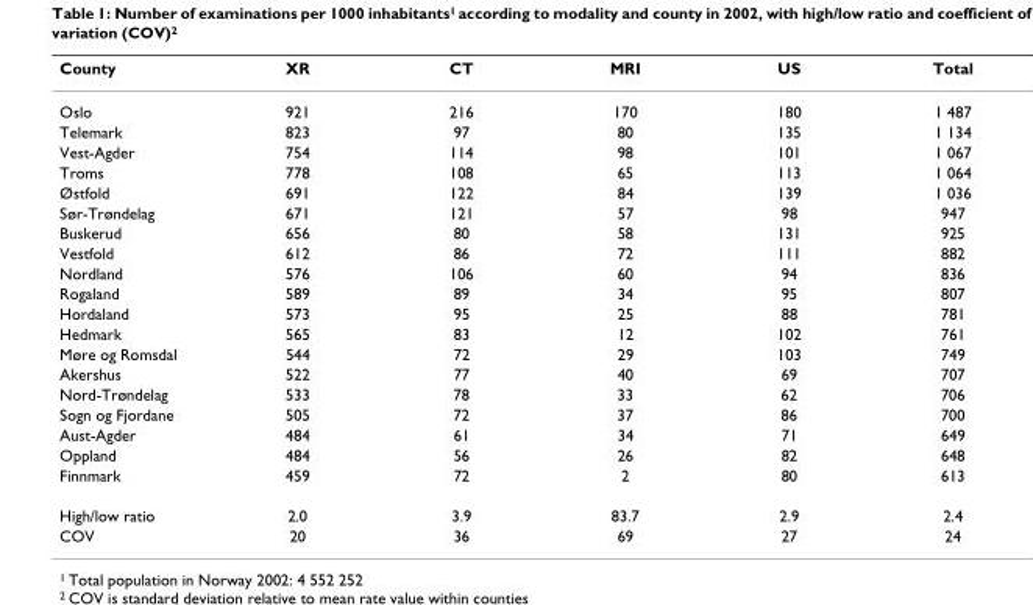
<table><thead><tr><td>County</td><td>XR</td><td>CT</td><td>MRI</td><td>US</td><td>Total</td></tr></thead><tbody><tr><td>Oslo</td><td>921</td><td>216</td><td>170</td><td>180</td><td>1 487</td></tr><tr><td>Telemark</td><td>823</td><td>97</td><td>80</td><td>135</td><td>1 134</td></tr><tr><td>Vest-Agder</td><td>754</td><td>114</td><td>98</td><td>101</td><td>1 067</td></tr><tr><td>Troms</td><td>778</td><td>108</td><td>65</td><td>113</td><td>1 064</td></tr><tr><td>Østfold</td><td>691</td><td>122</td><td>84</td><td>139</td><td>1 036</td></tr><tr><td>Sør-Trøndelag</td><td>671</td><td>121</td><td>57</td><td>98</td><td>947</td></tr><tr><td>Buskerud</td><td>656</td><td>80</td><td>58</td><td>131</td><td>925</td></tr><tr><td>Vestfold</td><td>612</td><td>86</td><td>72</td><td>111</td><td>882</td></tr><tr><td>Nordland</td><td>576</td><td>106</td><td>60</td><td>94</td><td>836</td></tr><tr><td>Rogaland</td><td>589</td><td>89</td><td>34</td><td>95</td><td>807</td></tr><tr><td>Hordaland</td><td>573</td><td>95</td><td>25</td><td>88</td><td>781</td></tr><tr><td>Hedmark</td><td>565</td><td>83</td><td>12</td><td>102</td><td>761</td></tr><tr><td>Møre og Romsdal</td><td>544</td><td>72</td><td>29</td><td>103</td><td>749</td></tr><tr><td>Akershus</td><td>522</td><td>77</td><td>40</td><td>69</td><td>707</td></tr><tr><td>Nord-Trøndelag</td><td>533</td><td>78</td><td>33</td><td>62</td><td>706</td></tr><tr><td>Sogn og Fjordane</td><td>505</td><td>72</td><td>37</td><td>86</td><td>700</td></tr><tr><td>Aust-Agder</td><td>484</td><td>61</td><td>34</td><td>71</td><td>649</td></tr><tr><td>Oppland</td><td>484</td><td>56</td><td>26</td><td>82</td><td>648</td></tr><tr><td>Finnmark</td><td>459</td><td>72</td><td>2</td><td>80</td><td>613</td></tr><tr><td>High/low ratio</td><td>2.0</td><td>3.9</td><td>83.7</td><td>2.9</td><td>2.4</td></tr><tr><td>COV</td><td>20</td><td>36</td><td>69</td><td>27</td><td>24</td></tr></tbody></table>